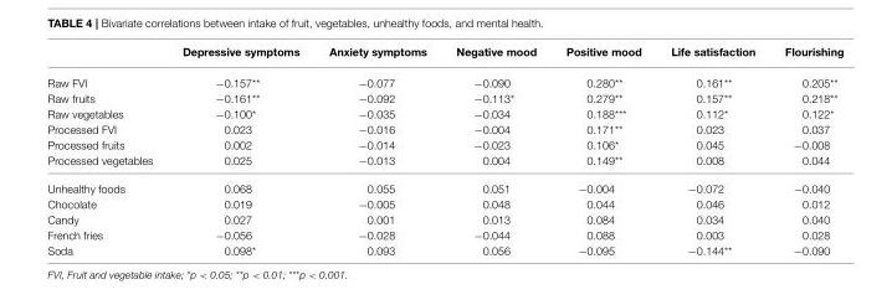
<table><thead><tr><td></td><td>Depressive symptoms</td><td>Anxiety symptoms</td><td>Negative mood</td><td>Positive mood</td><td>Life satisfaction</td><td>Flourishing</td></tr></thead><tbody><tr><td>Raw FVI</td><td>−0.157**</td><td>−0.077</td><td>−0.090</td><td>0.280**</td><td>0.161**</td><td>0.205**</td></tr><tr><td>Raw fruits</td><td>−0.161**</td><td>−0.092</td><td>−0.113*</td><td>0.279**</td><td>0.157**</td><td>0.218**</td></tr><tr><td>Raw vegetables</td><td>−0.100*</td><td>−0.035</td><td>−0.034</td><td>0.188***</td><td>0.112*</td><td>0.122*</td></tr><tr><td>Processed FVI</td><td>0.023</td><td>−0.016</td><td>−0.004</td><td>0.171**</td><td>0.023</td><td>0.037</td></tr><tr><td>Processed fruits</td><td>0.002</td><td>−0.014</td><td>−0.023</td><td>0.106*</td><td>0.045</td><td>−0.008</td></tr><tr><td>Processed vegetables</td><td>0.025</td><td>−0.013</td><td>0.004</td><td>0.149**</td><td>0.008</td><td>0.044</td></tr><tr><td>Unhealthy foods</td><td>0.068</td><td>0.055</td><td>0.051</td><td>−0.004</td><td>−0.072</td><td>−0.040</td></tr><tr><td>Chocolate</td><td>0.019</td><td>−0.005</td><td>0.048</td><td>0.044</td><td>0.046</td><td>0.012</td></tr><tr><td>Candy</td><td>0.027</td><td>0.001</td><td>0.013</td><td>0.084</td><td>0.034</td><td>0.040</td></tr><tr><td>French fries</td><td>−0.056</td><td>−0.028</td><td>−0.044</td><td>0.088</td><td>0.003</td><td>0.028</td></tr><tr><td>Soda</td><td>0.098*</td><td>0.093</td><td>0.056</td><td>−0.095</td><td>−0.144**</td><td>−0.090</td></tr></tbody></table>